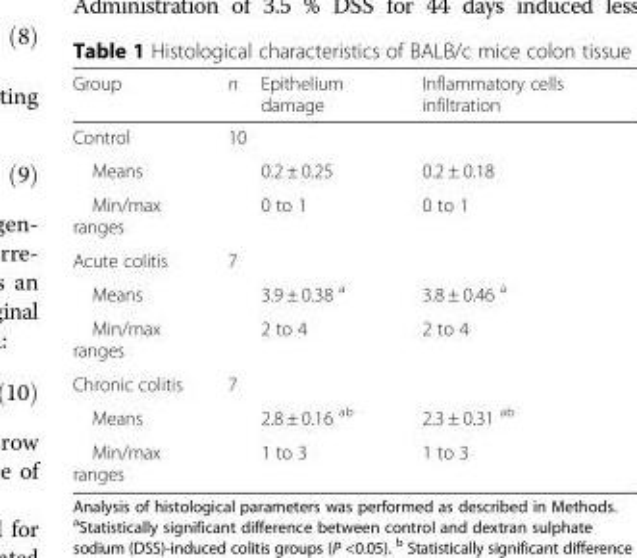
<table><thead><tr><td>Group</td><td>n</td><td>Epithelium damage</td><td>Inflammatory cells infiltration</td></tr></thead><tbody><tr><td>Control</td><td>10</td><td></td><td></td></tr><tr><td>Means</td><td></td><td>0.2 ± 0.25</td><td>0.2 ± 0.18</td></tr><tr><td>Min/max ranges</td><td></td><td>0 to 1</td><td>0 to 1</td></tr><tr><td>Acute colitis</td><td>7</td><td></td><td></td></tr><tr><td>Means</td><td></td><td>3.9 ± 0.38 <sup>a</sup></td><td>3.8 ± 0.46 <sup>a</sup></td></tr><tr><td>Min/max ranges</td><td></td><td>2 to 4</td><td>2 to 4</td></tr><tr><td>Chronic colitis</td><td>7</td><td></td><td></td></tr><tr><td>Means</td><td></td><td>2.8 ± 0.16 <sup>ab</sup></td><td>2.3 ± 0.31 <sup>ab</sup></td></tr><tr><td>Min/max ranges</td><td></td><td>1 to 3</td><td>1 to 3</td></tr></tbody></table>